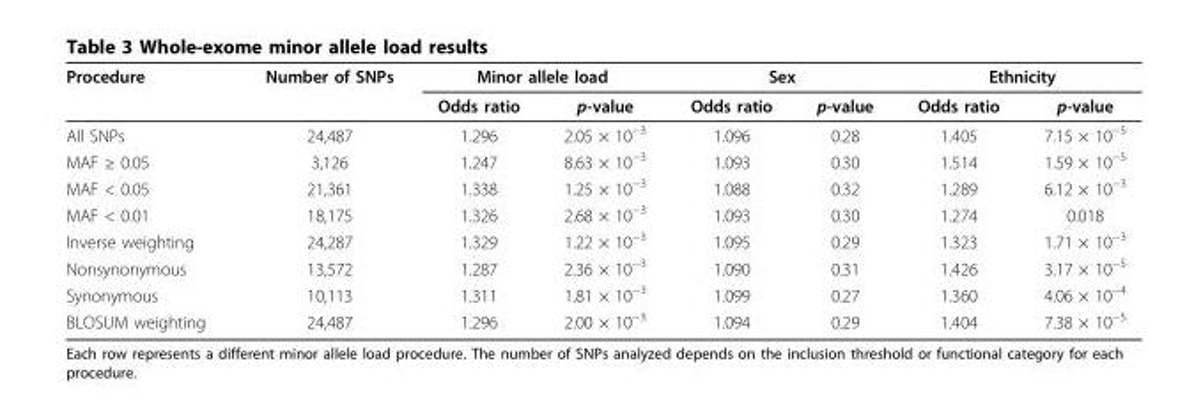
<table><thead><tr><td rowspan="2">Procedure</td><td rowspan="2">Number of SNPs</td><td colspan="2">Minor allele load</td><td colspan="2">Sex</td><td colspan="2">Ethnicity</td></tr><tr><td>Odds ratio</td><td>p-value</td><td>Odds ratio</td><td>p-value</td><td>Odds ratio</td><td>p-value</td></tr></thead><tbody><tr><td>All SNPs</td><td>24,487</td><td>1.296</td><td>2.05 × 10<sup>−3</sup></td><td>1.096</td><td>0.28</td><td>1.405</td><td>7.15 × 10<sup>−5</sup></td></tr><tr><td>MAF ≥ 0.05</td><td>3,126</td><td>1.247</td><td>8.63 × 10<sup>−3</sup></td><td>1.093</td><td>0.30</td><td>1.514</td><td>1.59 × 10<sup>−5</sup></td></tr><tr><td>MAF &lt; 0.05</td><td>21,361</td><td>1.338</td><td>1.25 × 10<sup>−3</sup></td><td>1.088</td><td>0.32</td><td>1.289</td><td>6.12 × 10<sup>−3</sup></td></tr><tr><td>MAF &lt; 0.01</td><td>18,175</td><td>1.326</td><td>2.68 × 10<sup>−3</sup></td><td>1.093</td><td>0.30</td><td>1.274</td><td>0.018</td></tr><tr><td>Inverse weighting</td><td>24,287</td><td>1.329</td><td>1.22 × 10<sup>−3</sup></td><td>1.095</td><td>0.29</td><td>1.323</td><td>1.71 × 10<sup>−3</sup></td></tr><tr><td>Nonsynonymous</td><td>13,572</td><td>1.287</td><td>2.36 × 10<sup>−3</sup></td><td>1.090</td><td>0.31</td><td>1.426</td><td>3.17 × 10<sup>−5</sup></td></tr><tr><td>Synonymous</td><td>10,113</td><td>1.311</td><td>1.81 × 10<sup>−3</sup></td><td>1.099</td><td>0.27</td><td>1.360</td><td>4.06 × 10<sup>−4</sup></td></tr><tr><td>BLOSUM weighting</td><td>24,487</td><td>1.296</td><td>2.00 × 10<sup>−3</sup></td><td>1.094</td><td>0.29</td><td>1.404</td><td>7.38 × 10<sup>−5</sup></td></tr></tbody></table>